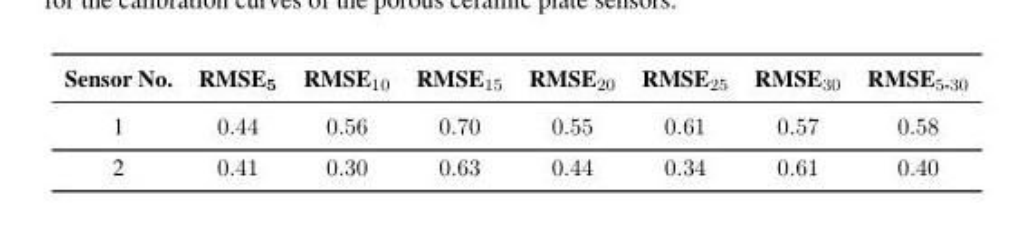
<table><thead><tr><td>Sensor No.</td><td>RMSE<sub>5</sub></td><td>RMSE<sub>10</sub></td><td>RMSE<sub>15</sub></td><td>RMSE<sub>20</sub></td><td>RMSE<sub>25</sub></td><td>RMSE<sub>30</sub></td><td>RMSE<sub>5-30</sub></td></tr></thead><tbody><tr><td>1</td><td>0.44</td><td>0.56</td><td>0.70</td><td>0.55</td><td>0.61</td><td>0.57</td><td>0.58</td></tr><tr><td>2</td><td>0.41</td><td>0.30</td><td>0.63</td><td>0.44</td><td>0.34</td><td>0.61</td><td>0.40</td></tr></tbody></table>